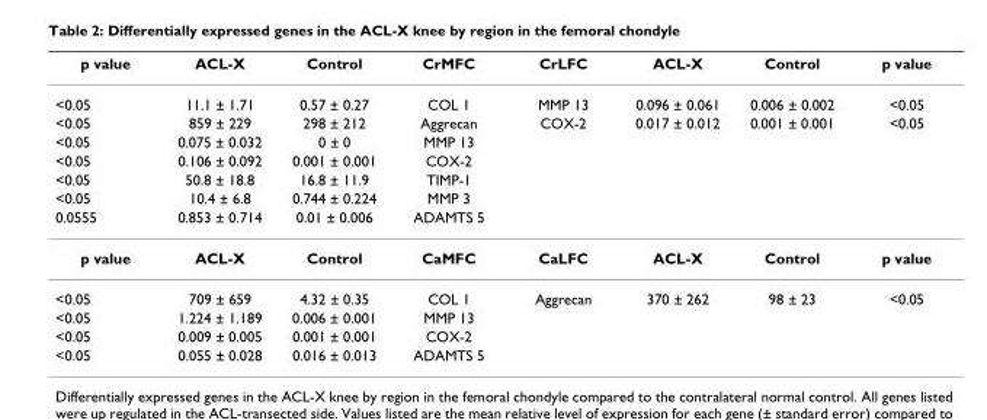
<table><thead><tr><td>p value</td><td>ACL-X</td><td>Control</td><td>CrMFC</td><td>CrLFC</td><td>ACL-X</td><td>Control</td><td>p value</td></tr></thead><tbody><tr><td>&lt;0.05</td><td>11.1 ± 1.71</td><td>0.57 ± 0.27</td><td>COL 1</td><td>MMP 13</td><td>0.096 ± 0.061</td><td>0.006 ± 0.002</td><td>&lt;0.05</td></tr><tr><td>&lt;0.05</td><td>859 ± 229</td><td>298 ± 212</td><td>Aggrecan</td><td>COX-2</td><td>0.017 ± 0.012</td><td>0.001 ± 0.001</td><td>&lt;0.05</td></tr><tr><td>&lt;0.05</td><td>0.075 ± 0.032</td><td>0 ± 0</td><td>MMP 13</td><td></td><td></td><td></td><td></td></tr><tr><td>&lt;0.05</td><td>0.106 ± 0.092</td><td>0.001 ± 0.001</td><td>COX-2</td><td></td><td></td><td></td><td></td></tr><tr><td>&lt;0.05</td><td>50.8 ± 18.8</td><td>16.8 ± 11.9</td><td>TIMP-1</td><td></td><td></td><td></td><td></td></tr><tr><td>&lt;0.05</td><td>10.4 ± 6.8</td><td>0.744 ± 0.224</td><td>MMP 3</td><td></td><td></td><td></td><td></td></tr><tr><td>0.0555</td><td>0.853 ± 0.714</td><td>0.01 ± 0.006</td><td>ADAMTS 5</td><td></td><td></td><td></td><td></td></tr><tr><td>p value</td><td>ACL-X</td><td>Control</td><td>CaMFC</td><td>CaLFC</td><td>ACL-X</td><td>Control</td><td>p value</td></tr><tr><td>&lt;0.05</td><td>709 ± 659</td><td>4.32 ± 0.35</td><td>COL 1</td><td>Aggrecan</td><td>370 ± 262</td><td>98 ± 23</td><td>&lt;0.05</td></tr><tr><td>&lt;0.05</td><td>1.224 ± 1.189</td><td>0.006 ± 0.001</td><td>MMP 13</td><td></td><td></td><td></td><td></td></tr><tr><td>&lt;0.05</td><td>0.009 ± 0.005</td><td>0.001 ± 0.001</td><td>COX-2</td><td></td><td></td><td></td><td></td></tr><tr><td>&lt;0.05</td><td>0.055 ± 0.028</td><td>0.016 ± 0.013</td><td>ADAMTS 5</td><td></td><td></td><td></td><td></td></tr></tbody></table>